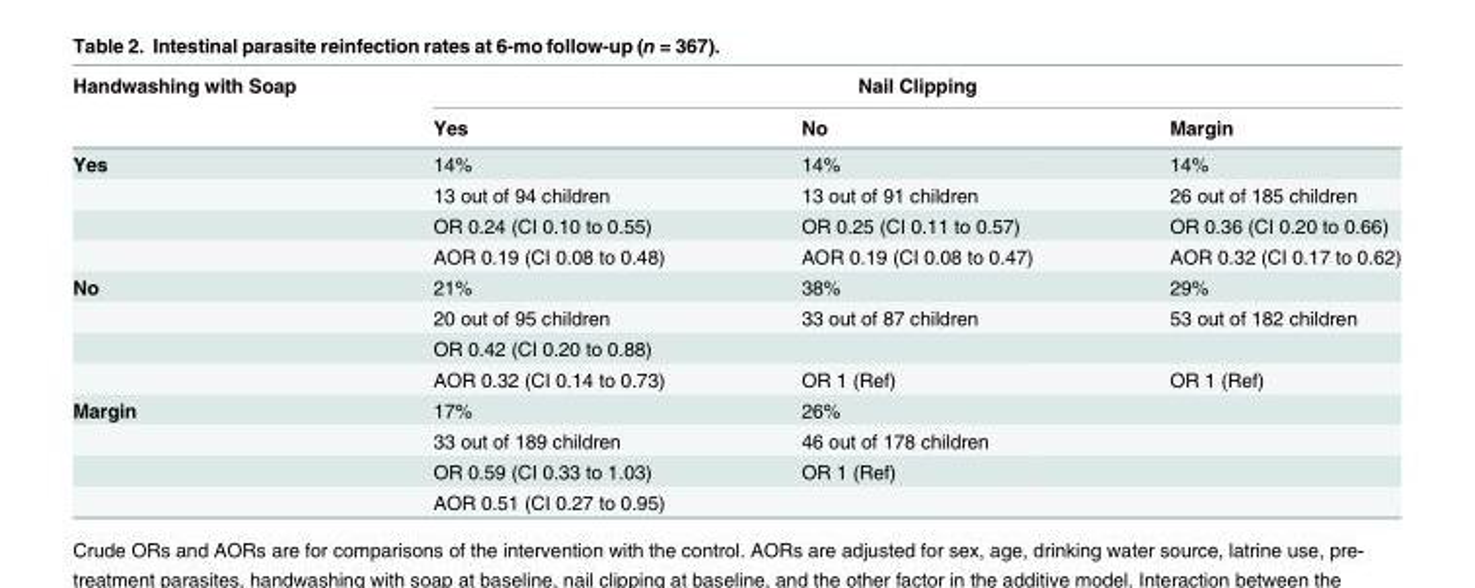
<table><thead><tr><td rowspan="2">Handwashing with Soap</td><td colspan="3">Nail Clipping</td></tr><tr><td>Yes</td><td>No</td><td>Margin</td></tr></thead><tbody><tr><td rowspan="4">Yes</td><td>14%</td><td>14%</td><td>14%</td></tr><tr><td>13 out of 94 children</td><td>13 out of 91 children</td><td>26 out of 185 children</td></tr><tr><td>OR 0.24 (CI 0.10 to 0.55)</td><td>OR 0.25 (CI 0.11 to 0.57)</td><td>OR 0.36 (CI 0.20 to 0.66)</td></tr><tr><td>AOR 0.19 (CI 0.08 to 0.48)</td><td>AOR 0.19 (CI 0.08 to 0.47)</td><td>AOR 0.32 (CI 0.17 to 0.62)</td></tr><tr><td rowspan="4">No</td><td>21%</td><td>38%</td><td>29%</td></tr><tr><td>20 out of 95 children</td><td>33 out of 87 children</td><td>53 out of 182 children</td></tr><tr><td>OR 0.42 (CI 0.20 to 0.88)</td><td></td><td></td></tr><tr><td>AOR 0.32 (CI 0.14 to 0.73)</td><td>OR 1 (Ref)</td><td>OR 1 (Ref)</td></tr><tr><td rowspan="4">Margin</td><td>17%</td><td>26%</td><td></td></tr><tr><td>33 out of 189 children</td><td>46 out of 178 children</td><td></td></tr><tr><td>OR 0.59 (CI 0.33 to 1.03)</td><td>OR 1 (Ref)</td><td></td></tr><tr><td>AOR 0.51 (CI 0.27 to 0.95)</td><td></td><td></td></tr></tbody></table>